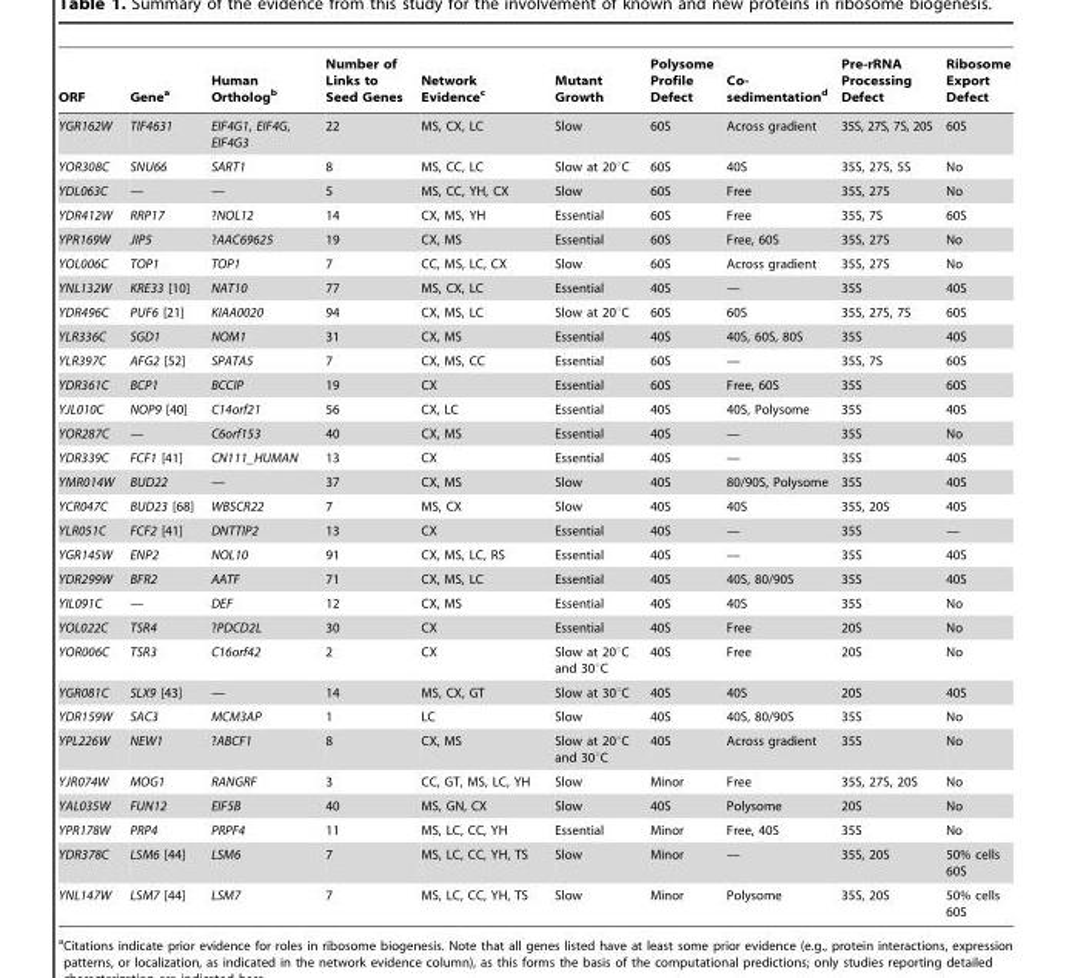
<table><thead><tr><td>ORF</td><td>Gene<sup>a</sup></td><td>Human Ortholog<sup>b</sup></td><td>Number of Links to Seed Genes</td><td>Network Evidence<sup>c</sup></td><td>Mutant Growth</td><td>Polysome Profile Defect</td><td>Co- sedimentation<sup>d</sup></td><td>Pre-rRNA Processing Defect</td><td>Ribosome Export Defect</td></tr></thead><tbody><tr><td>YGR162W</td><td>TIF4631</td><td>EIF4G1, EIF4G, EIF4G3</td><td>22</td><td>MS, CX, LC</td><td>Slow</td><td>60S</td><td>Across gradient</td><td>35S, 27S, 7S, 20S</td><td>60S</td></tr><tr><td>YOR308C</td><td>SNU66</td><td>SART1</td><td>8</td><td>MS, CC, LC</td><td>Slow at 20°C</td><td>60S</td><td>40S</td><td>35S, 27S, 5S</td><td>No</td></tr><tr><td>YDL063C</td><td>—</td><td>—</td><td>5</td><td>MS, CC, YH, CX</td><td>Slow</td><td>60S</td><td>Free</td><td>35S, 27S</td><td>No</td></tr><tr><td>YDR412W</td><td>RRP17</td><td>?NOL12</td><td>14</td><td>CX, MS, YH</td><td>Essential</td><td>60S</td><td>Free</td><td>35S, 7S</td><td>60S</td></tr><tr><td>YPR169W</td><td>JIP5</td><td>?AAC69625</td><td>19</td><td>CX, MS</td><td>Essential</td><td>60S</td><td>Free, 60S</td><td>35S, 27S</td><td>No</td></tr><tr><td>YOL006C</td><td>TOP1</td><td>TOP1</td><td>7</td><td>CC, MS, LC, CX</td><td>Slow</td><td>60S</td><td>Across gradient</td><td>35S, 27S</td><td>No</td></tr><tr><td>YNL132W</td><td>KRE33 [10]</td><td>NAT10</td><td>77</td><td>MS, CX, LC</td><td>Essential</td><td>40S</td><td>—</td><td>35S</td><td>40S</td></tr><tr><td>YDR496C</td><td>PUF6 [21]</td><td>KIAA0020</td><td>94</td><td>CX, MS, LC</td><td>Slow at 20°C</td><td>60S</td><td>60S</td><td>35S, 27S, 7S</td><td>60S</td></tr><tr><td>YLR336C</td><td>SGD1</td><td>NOM1</td><td>31</td><td>CX, MS</td><td>Essential</td><td>40S</td><td>40S, 60S, 80S</td><td>35S</td><td>40S</td></tr><tr><td>YLR397C</td><td>AFG2 [52]</td><td>SPATA5</td><td>7</td><td>CX, MS, CC</td><td>Essential</td><td>60S</td><td>—</td><td>35S, 7S</td><td>60S</td></tr><tr><td>YDR361C</td><td>BCP1</td><td>BCCIP</td><td>19</td><td>CX</td><td>Essential</td><td>60S</td><td>Free, 60S</td><td>35S</td><td>60S</td></tr><tr><td>YJL010C</td><td>NOP9 [40]</td><td>C14orf21</td><td>56</td><td>CX, LC</td><td>Essential</td><td>40S</td><td>40S, Polysome</td><td>35S</td><td>40S</td></tr><tr><td>YOR287C</td><td>—</td><td>C6orf153</td><td>40</td><td>CX, MS</td><td>Essential</td><td>40S</td><td>—</td><td>35S</td><td>No</td></tr><tr><td>YDR339C</td><td>FCF1 [41]</td><td>CN111_HUMAN</td><td>13</td><td>CX</td><td>Essential</td><td>40S</td><td>—</td><td>35S</td><td>40S</td></tr><tr><td>YMR014W</td><td>BUD22</td><td>—</td><td>37</td><td>CX, MS</td><td>Slow</td><td>40S</td><td>80/90S, Polysome</td><td>35S</td><td>40S</td></tr><tr><td>YCR047C</td><td>BUD23 [68]</td><td>WBSCR22</td><td>7</td><td>MS, CX</td><td>Slow</td><td>40S</td><td>40S</td><td>35S, 20S</td><td>40S</td></tr><tr><td>YLR051C</td><td>FCF2 [41]</td><td>DNTTIP2</td><td>13</td><td>CX</td><td>Essential</td><td>40S</td><td>—</td><td>35S</td><td>—</td></tr><tr><td>YGR145W</td><td>ENP2</td><td>NOL10</td><td>91</td><td>CX, MS, LC, RS</td><td>Essential</td><td>40S</td><td>—</td><td>35S</td><td>40S</td></tr><tr><td>YDR299W</td><td>BFR2</td><td>AATF</td><td>71</td><td>CX, MS, LC</td><td>Essential</td><td>40S</td><td>40S, 80/90S</td><td>35S</td><td>40S</td></tr><tr><td>YIL091C</td><td>—</td><td>DEF</td><td>12</td><td>CX, MS</td><td>Essential</td><td>40S</td><td>40S</td><td>35S</td><td>No</td></tr><tr><td>YOL022C</td><td>TSR4</td><td>?PDCD2L</td><td>30</td><td>CX</td><td>Essential</td><td>40S</td><td>Free</td><td>20S</td><td>No</td></tr><tr><td>YOR006C</td><td>TSR3</td><td>C16orf42</td><td>2</td><td>CX</td><td>Slow at 20°C and 30°C</td><td>40S</td><td>Free</td><td>20S</td><td>No</td></tr><tr><td>YGR081C</td><td>SLX9 [43]</td><td>—</td><td>14</td><td>MS, CX, GT</td><td>Slow at 30°C</td><td>40S</td><td>40S</td><td>20S</td><td>40S</td></tr><tr><td>YDR159W</td><td>SAC3</td><td>MCM3AP</td><td>1</td><td>LC</td><td>Slow</td><td>40S</td><td>40S, 80/90S</td><td>35S</td><td>No</td></tr><tr><td>YPL226W</td><td>NEW1</td><td>?ABCF1</td><td>8</td><td>CX, MS</td><td>Slow at 20°C and 30°C</td><td>40S</td><td>Across gradient</td><td>35S</td><td>No</td></tr><tr><td>YJR074W</td><td>MOG1</td><td>RANGRF</td><td>3</td><td>CC, GT, MS, LC, YH</td><td>Slow</td><td>Minor</td><td>Free</td><td>35S, 27S, 20S</td><td>No</td></tr><tr><td>YAL035W</td><td>FUN12</td><td>EIF5B</td><td>40</td><td>MS, GN, CX</td><td>Slow</td><td>40S</td><td>Polysome</td><td>20S</td><td>No</td></tr><tr><td>YPR178W</td><td>PRP4</td><td>PRPF4</td><td>11</td><td>MS, LC, CC, YH</td><td>Essential</td><td>Minor</td><td>Free, 40S</td><td>35S</td><td>No</td></tr><tr><td>YDR378C</td><td>LSM6 [44]</td><td>LSM6</td><td>7</td><td>MS, LC, CC, YH, TS</td><td>Slow</td><td>Minor</td><td>—</td><td>35S, 20S</td><td>50% cells 60S</td></tr><tr><td>YNL147W</td><td>LSM7 [44]</td><td>LSM7</td><td>7</td><td>MS, LC, CC, YH, TS</td><td>Slow</td><td>Minor</td><td>Polysome</td><td>35S, 20S</td><td>50% cells 60S</td></tr></tbody></table>